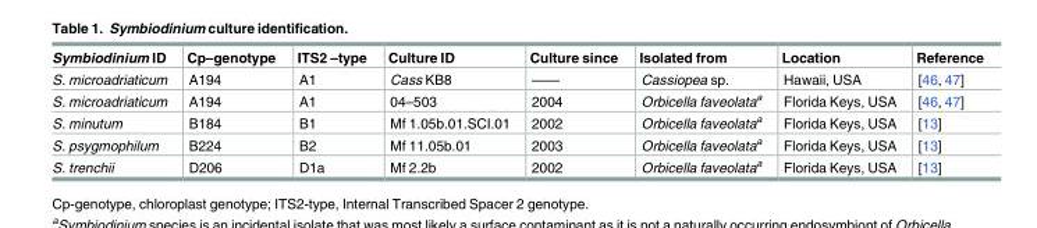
<table><thead><tr><td>Symbiodinium ID</td><td>Cp–genotype</td><td>ITS2 –type</td><td>Culture ID</td><td>Culture since</td><td>Isolated from</td><td>Location</td><td>Reference</td></tr></thead><tbody><tr><td>S. microadriaticum</td><td>A194</td><td>A1</td><td>Cass KB8</td><td>——</td><td>Cassiopea sp.</td><td>Hawaii, USA</td><td>[46, 47]</td></tr><tr><td>S. microadriaticum</td><td>A194</td><td>A1</td><td>04–503</td><td>2004</td><td>Orbicella faveolata<sup>a</sup></td><td>Florida Keys, USA</td><td>[46, 47]</td></tr><tr><td>S. minutum</td><td>B184</td><td>B1</td><td>Mf 1.05b.01.SCI.01</td><td>2002</td><td>Orbicella faveolata<sup>a</sup></td><td>Florida Keys, USA</td><td>[13]</td></tr><tr><td>S. psygmophilum</td><td>B224</td><td>B2</td><td>Mf 11.05b.01</td><td>2003</td><td>Orbicella faveolata<sup>a</sup></td><td>Florida Keys, USA</td><td>[13]</td></tr><tr><td>S. trenchii</td><td>D206</td><td>D1a</td><td>Mf 2.2b</td><td>2002</td><td>Orbicella faveolata<sup>a</sup></td><td>Florida Keys, USA</td><td>[13]</td></tr></tbody></table>